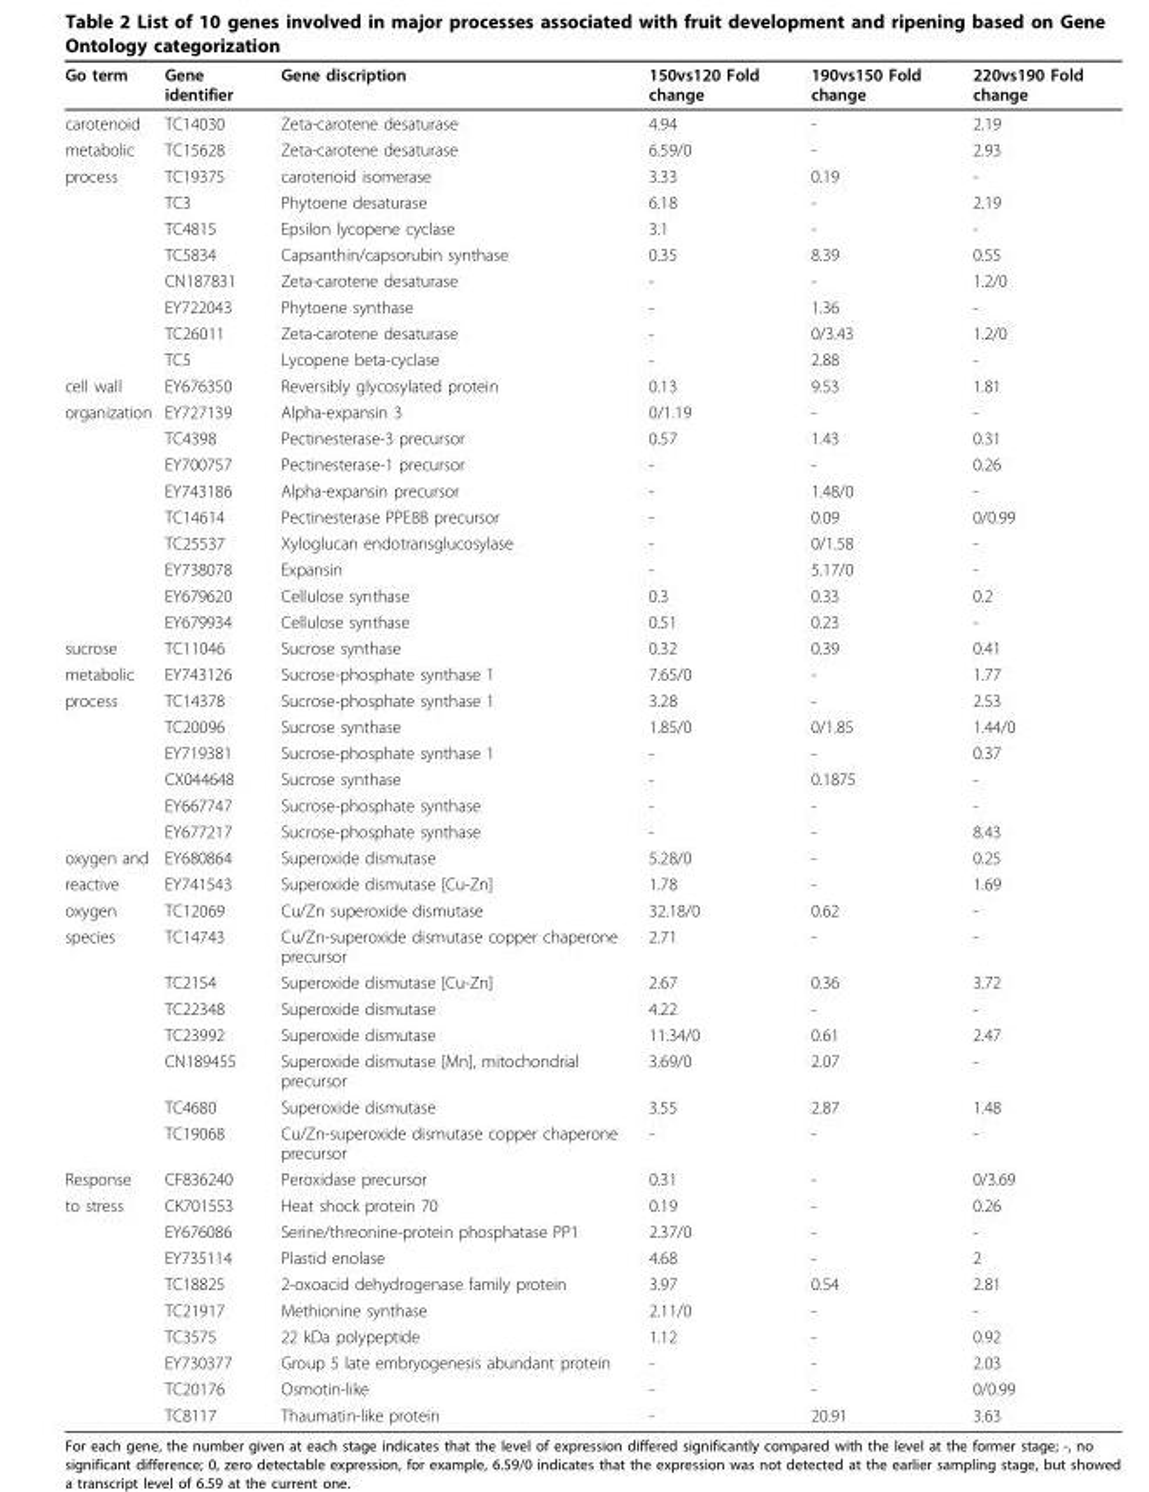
<table><thead><tr><td>Go term</td><td>Gene identifier</td><td>Gene discription</td><td>150vs120 Fold change</td><td>190vs150 Fold change</td><td>220vs190 Fold change</td></tr></thead><tbody><tr><td>carotenoid</td><td>TC14030</td><td>Zeta-carotene desaturase</td><td>4.94</td><td>-</td><td>2.19</td></tr><tr><td>metabolic</td><td>TC15628</td><td>Zeta-carotene desaturase</td><td>6.59/0</td><td>-</td><td>2.93</td></tr><tr><td rowspan="8">process</td><td>TC19375</td><td>carotenoid isomerase</td><td>3.33</td><td>0.19</td><td>-</td></tr><tr><td>TC3</td><td>Phytoene desaturase</td><td>6.18</td><td>-</td><td>2.19</td></tr><tr><td>TC4815</td><td>Epsilon lycopene cyclase</td><td>3.1</td><td>-</td><td>-</td></tr><tr><td>TC5834</td><td>Capsanthin/capsorubin synthase</td><td>0.35</td><td>8.39</td><td>0.55</td></tr><tr><td>CN187831</td><td>Zeta-carotene desaturase</td><td>-</td><td>-</td><td>1.2/0</td></tr><tr><td>EY722043</td><td>Phytoene synthase</td><td>-</td><td>1.36</td><td>-</td></tr><tr><td>TC26011</td><td>Zeta-carotene desaturase</td><td>-</td><td>0/3.43</td><td>1.2/0</td></tr><tr><td>TC5</td><td>Lycopene beta-cyclase</td><td>-</td><td>2.88</td><td>-</td></tr><tr><td>cell wall</td><td>EY676350</td><td>Reversibly glycosylated protein</td><td>0.13</td><td>9.53</td><td>1.81</td></tr><tr><td rowspan="9">organization</td><td>EY727139</td><td>Alpha-expansin 3</td><td>0/1.19</td><td>-</td><td>-</td></tr><tr><td>TC4398</td><td>Pectinesterase-3 precursor</td><td>0.57</td><td>1.43</td><td>0.31</td></tr><tr><td>EY700757</td><td>Pectinesterase-1 precursor</td><td>-</td><td>-</td><td>0.26</td></tr><tr><td>EY743186</td><td>Alpha-expansin precursor</td><td>-</td><td>1.48/0</td><td>-</td></tr><tr><td>TC14614</td><td>Pectinesterase PPE8B precursor</td><td>-</td><td>0.09</td><td>0/0.99</td></tr><tr><td>TC25537</td><td>Xyloglucan endotransglucosylase</td><td>-</td><td>0/1.58</td><td>-</td></tr><tr><td>EY738078</td><td>Expansin</td><td>-</td><td>5.17/0</td><td>-</td></tr><tr><td>EY679620</td><td>Cellulose synthase</td><td>0.3</td><td>0.33</td><td>0.2</td></tr><tr><td>EY679934</td><td>Cellulose synthase</td><td>0.51</td><td>0.23</td><td>-</td></tr><tr><td>sucrose</td><td>TC11046</td><td>Sucrose synthase</td><td>0.32</td><td>0.39</td><td>0.41</td></tr><tr><td>metabolic</td><td>EY743126</td><td>Sucrose-phosphate synthase 1</td><td>7.65/0</td><td>-</td><td>1.77</td></tr><tr><td rowspan="6">process</td><td>TC14378</td><td>Sucrose-phosphate synthase 1</td><td>3.28</td><td>-</td><td>2.53</td></tr><tr><td>TC20096</td><td>Sucrose synthase</td><td>1.85/0</td><td>0/1.85</td><td>1.44/0</td></tr><tr><td>EY719381</td><td>Sucrose-phosphate synthase 1</td><td>-</td><td>-</td><td>0.37</td></tr><tr><td>CX044648</td><td>Sucrose synthase</td><td>-</td><td>0.1875</td><td>-</td></tr><tr><td>EY667747</td><td>Sucrose-phosphate synthase</td><td>-</td><td>-</td><td>-</td></tr><tr><td>EY677217</td><td>Sucrose-phosphate synthase</td><td>-</td><td>-</td><td>8.43</td></tr><tr><td>oxygen and</td><td>EY680864</td><td>Superoxide dismutase</td><td>5.28/0</td><td>-</td><td>0.25</td></tr><tr><td>reactive</td><td>EY741543</td><td>Superoxide dismutase [Cu-Zn]</td><td>1.78</td><td>-</td><td>1.69</td></tr><tr><td>oxygen</td><td>TC12069</td><td>Cu/Zn superoxide dismutase</td><td>32.18/0</td><td>0.62</td><td>-</td></tr><tr><td rowspan="7">species</td><td>TC14743</td><td>Cu/Zn-superoxide dismutase copper chaperone precursor</td><td>2.71</td><td>-</td><td>-</td></tr><tr><td>TC2154</td><td>Superoxide dismutase [Cu-Zn]</td><td>2.67</td><td>0.36</td><td>3.72</td></tr><tr><td>TC22348</td><td>Superoxide dismutase</td><td>4.22</td><td>-</td><td>-</td></tr><tr><td>TC23992</td><td>Superoxide dismutase</td><td>11.34/0</td><td>0.61</td><td>2.47</td></tr><tr><td>CN189455</td><td>Superoxide dismutase [Mn], mitochondrial precursor</td><td>3.69/0</td><td>2.07</td><td>-</td></tr><tr><td>TC4680</td><td>Superoxide dismutase</td><td>3.55</td><td>2.87</td><td>1.48</td></tr><tr><td>TC19068</td><td>Cu/Zn-superoxide dismutase copper chaperone precursor</td><td>-</td><td>-</td><td>-</td></tr><tr><td>Response</td><td>CF836240</td><td>Peroxidase precursor</td><td>0.31</td><td>-</td><td>0/3.69</td></tr><tr><td rowspan="9">to stress</td><td>CK701553</td><td>Heat shock protein 70</td><td>0.19</td><td>-</td><td>0.26</td></tr><tr><td>EY676086</td><td>Serine/threonine-protein phosphatase PP1</td><td>2.37/0</td><td>-</td><td>-</td></tr><tr><td>EY735114</td><td>Plastid enolase</td><td>4.68</td><td>-</td><td>2</td></tr><tr><td>TC18825</td><td>2-oxoacid dehydrogenase family protein</td><td>3.97</td><td>0.54</td><td>2.81</td></tr><tr><td>TC21917</td><td>Methionine synthase</td><td>2.11/0</td><td>-</td><td>-</td></tr><tr><td>TC3575</td><td>22 kDa polypeptide</td><td>1.12</td><td>-</td><td>0.92</td></tr><tr><td>EY730377</td><td>Group 5 late embryogenesis abundant protein</td><td>-</td><td>-</td><td>2.03</td></tr><tr><td>TC20176</td><td>Osmotin-like</td><td>-</td><td>-</td><td>0/0.99</td></tr><tr><td>TC8117</td><td>Thaumatin-like protein</td><td>-</td><td>20.91</td><td>3.63</td></tr></tbody></table>